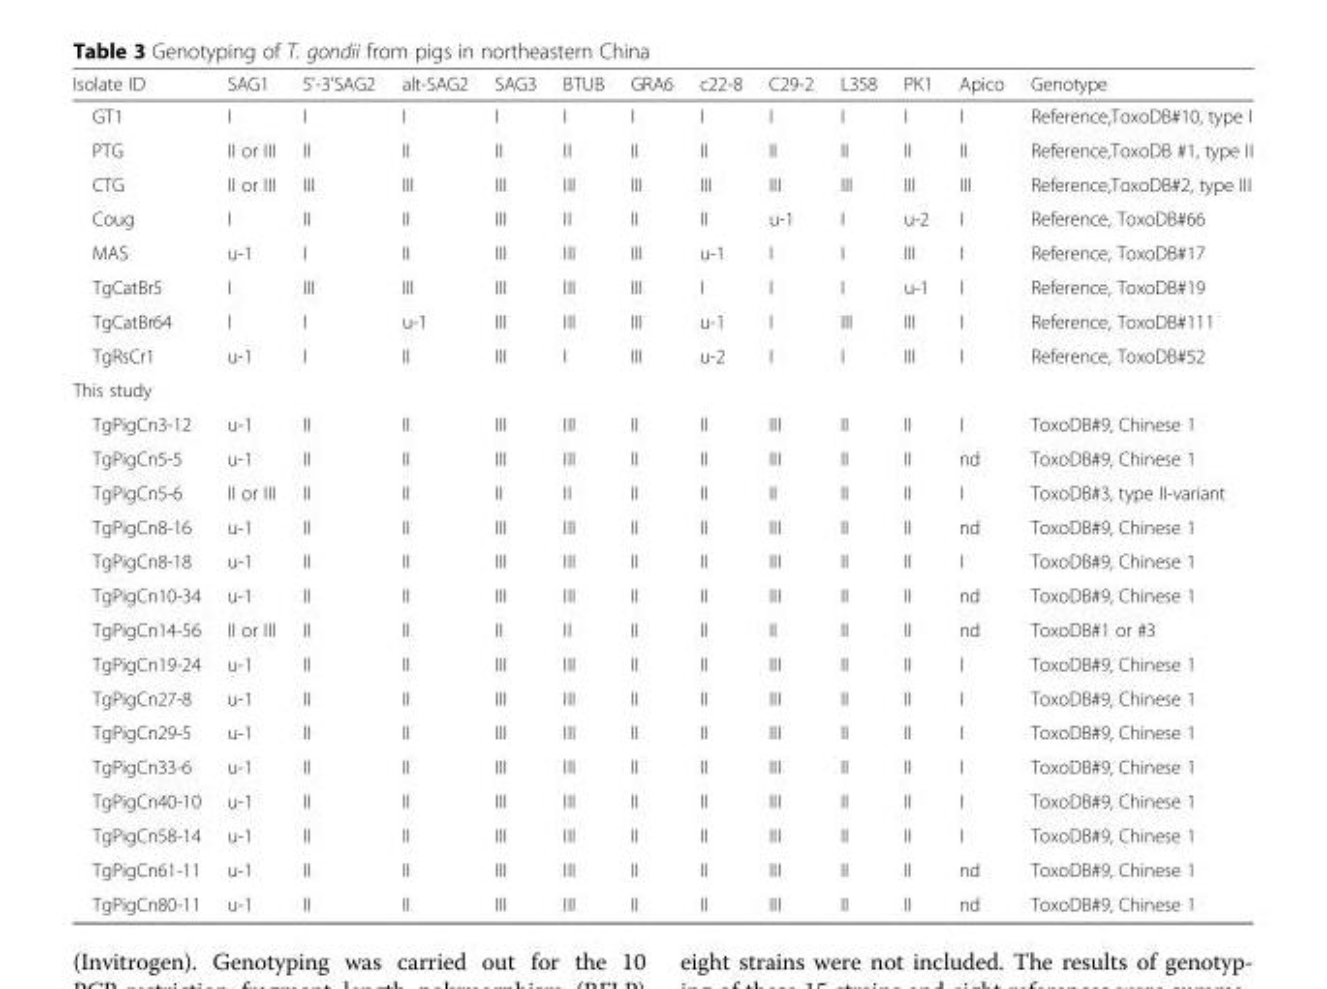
<table><thead><tr><td>Isolate ID</td><td>SAG1</td><td>5&#x27;-3&#x27;SAG2</td><td>alt-SAG2</td><td>SAG3</td><td>BTUB</td><td>GRA6</td><td>c22-8</td><td>C29-2</td><td>L358</td><td>PK1</td><td>Apico</td><td>Genotype</td></tr></thead><tbody><tr><td>GT1</td><td>I</td><td>I</td><td>I</td><td>I</td><td>I</td><td>I</td><td>I</td><td>I</td><td>I</td><td>I</td><td>I</td><td>Reference,ToxoDB#10, type I</td></tr><tr><td>PTG</td><td>II or III</td><td>II</td><td>II</td><td>II</td><td>II</td><td>II</td><td>II</td><td>II</td><td>II</td><td>II</td><td>II</td><td>Reference,ToxoDB #1, type II</td></tr><tr><td>CTG</td><td>II or III</td><td>III</td><td>III</td><td>III</td><td>III</td><td>III</td><td>III</td><td>III</td><td>III</td><td>III</td><td>III</td><td>Reference,ToxoDB#2, type III</td></tr><tr><td>Coug</td><td>I</td><td>II</td><td>II</td><td>III</td><td>II</td><td>II</td><td>II</td><td>u-1</td><td>I</td><td>u-2</td><td>I</td><td>Reference, ToxoDB#66</td></tr><tr><td>MAS</td><td>u-1</td><td>I</td><td>II</td><td>III</td><td>III</td><td>III</td><td>u-1</td><td>I</td><td>I</td><td>III</td><td>I</td><td>Reference, ToxoDB#17</td></tr><tr><td>TgCatBr5</td><td>I</td><td>III</td><td>III</td><td>III</td><td>III</td><td>III</td><td>I</td><td>I</td><td>I</td><td>u-1</td><td>I</td><td>Reference, ToxoDB#19</td></tr><tr><td>TgCatBr64</td><td>I</td><td>I</td><td>u-1</td><td>III</td><td>III</td><td>III</td><td>u-1</td><td>I</td><td>III</td><td>III</td><td>I</td><td>Reference, ToxoDB#111</td></tr><tr><td>TgRsCr1</td><td>u-1</td><td>I</td><td>II</td><td>III</td><td>I</td><td>III</td><td>u-2</td><td>I</td><td>I</td><td>III</td><td>I</td><td>Reference, ToxoDB#52</td></tr><tr><td colspan="13">This study</td></tr><tr><td>TgPigCn3-12</td><td>u-1</td><td>II</td><td>II</td><td>III</td><td>III</td><td>II</td><td>II</td><td>III</td><td>II</td><td>II</td><td>I</td><td>ToxoDB#9, Chinese 1</td></tr><tr><td>TgPigCn5-5</td><td>u-1</td><td>II</td><td>II</td><td>III</td><td>III</td><td>II</td><td>II</td><td>III</td><td>II</td><td>II</td><td>nd</td><td>ToxoDB#9, Chinese 1</td></tr><tr><td>TgPigCn5-6</td><td>II or III</td><td>II</td><td>II</td><td>II</td><td>II</td><td>II</td><td>II</td><td>II</td><td>II</td><td>II</td><td>I</td><td>ToxoDB#3, type II-variant</td></tr><tr><td>TgPigCn8-16</td><td>u-1</td><td>II</td><td>II</td><td>III</td><td>III</td><td>II</td><td>II</td><td>III</td><td>II</td><td>II</td><td>nd</td><td>ToxoDB#9, Chinese 1</td></tr><tr><td>TgPigCn8-18</td><td>u-1</td><td>II</td><td>II</td><td>III</td><td>III</td><td>II</td><td>II</td><td>III</td><td>II</td><td>II</td><td>I</td><td>ToxoDB#9, Chinese 1</td></tr><tr><td>TgPigCn10-34</td><td>u-1</td><td>II</td><td>II</td><td>III</td><td>III</td><td>II</td><td>II</td><td>III</td><td>II</td><td>II</td><td>nd</td><td>ToxoDB#9, Chinese 1</td></tr><tr><td>TgPigCn14-56</td><td>II or III</td><td>II</td><td>II</td><td>II</td><td>II</td><td>II</td><td>II</td><td>II</td><td>II</td><td>II</td><td>nd</td><td>ToxoDB#1 or #3</td></tr><tr><td>TgPigCn19-24</td><td>u-1</td><td>II</td><td>II</td><td>III</td><td>III</td><td>II</td><td>II</td><td>III</td><td>II</td><td>II</td><td>I</td><td>ToxoDB#9, Chinese 1</td></tr><tr><td>TgPigCn27-8</td><td>u-1</td><td>II</td><td>II</td><td>III</td><td>III</td><td>II</td><td>II</td><td>III</td><td>II</td><td>II</td><td>I</td><td>ToxoDB#9, Chinese 1</td></tr><tr><td>TgPigCn29-5</td><td>u-1</td><td>II</td><td>II</td><td>III</td><td>III</td><td>II</td><td>II</td><td>III</td><td>II</td><td>II</td><td>I</td><td>ToxoDB#9, Chinese 1</td></tr><tr><td>TgPigCn33-6</td><td>u-1</td><td>II</td><td>II</td><td>III</td><td>III</td><td>II</td><td>II</td><td>III</td><td>II</td><td>II</td><td>I</td><td>ToxoDB#9, Chinese 1</td></tr><tr><td>TgPigCn40-10</td><td>u-1</td><td>II</td><td>II</td><td>III</td><td>III</td><td>II</td><td>II</td><td>III</td><td>II</td><td>II</td><td>I</td><td>ToxoDB#9, Chinese 1</td></tr><tr><td>TgPigCn58-14</td><td>u-1</td><td>II</td><td>II</td><td>III</td><td>III</td><td>II</td><td>II</td><td>III</td><td>II</td><td>II</td><td>I</td><td>ToxoDB#9, Chinese 1</td></tr><tr><td>TgPigCn61-11</td><td>u-1</td><td>II</td><td>II</td><td>III</td><td>III</td><td>II</td><td>II</td><td>III</td><td>II</td><td>II</td><td>nd</td><td>ToxoDB#9, Chinese 1</td></tr><tr><td>TgPigCn80-11</td><td>u-1</td><td>II</td><td>II</td><td>III</td><td>III</td><td>II</td><td>II</td><td>III</td><td>II</td><td>II</td><td>nd</td><td>ToxoDB#9, Chinese 1</td></tr></tbody></table>